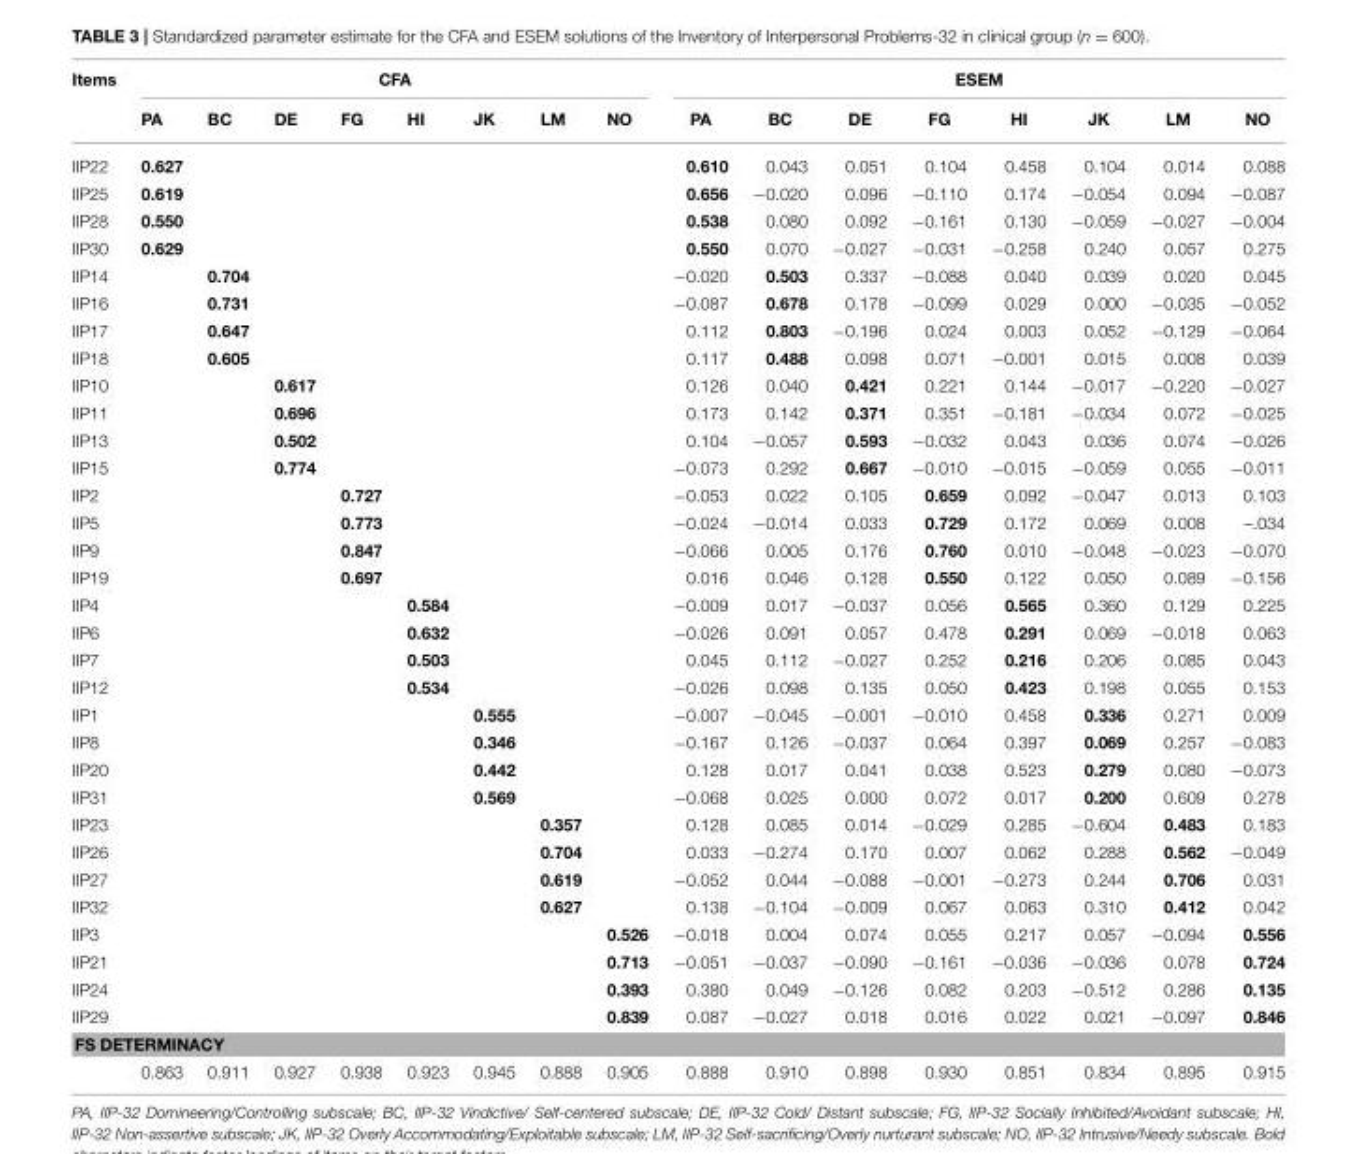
<table><thead><tr><td rowspan="2">Items</td><td colspan="8">CFA</td><td colspan="8">ESEM</td></tr><tr><td>PA</td><td>BC</td><td>DE</td><td>FG</td><td>HI</td><td>JK</td><td>LM</td><td>NO</td><td>PA</td><td>BC</td><td>DE</td><td>FG</td><td>HI</td><td>JK</td><td>LM</td><td>NO</td></tr></thead><tbody><tr><td>IIP22</td><td>0.627</td><td></td><td></td><td></td><td></td><td></td><td></td><td></td><td>0.610</td><td>0.043</td><td>0.051</td><td>0.104</td><td>0.458</td><td>0.104</td><td>0.014</td><td>0.088</td></tr><tr><td>IIP25</td><td>0.619</td><td></td><td></td><td></td><td></td><td></td><td></td><td></td><td>0.656</td><td>−0.020</td><td>0.096</td><td>−0.110</td><td>0.174</td><td>−0.054</td><td>0.094</td><td>−0.087</td></tr><tr><td>IIP28</td><td>0.550</td><td></td><td></td><td></td><td></td><td></td><td></td><td></td><td>0.538</td><td>0.080</td><td>0.092</td><td>−0.161</td><td>0.130</td><td>−0.059</td><td>−0.027</td><td>−0.004</td></tr><tr><td>IIP30</td><td>0.629</td><td></td><td></td><td></td><td></td><td></td><td></td><td></td><td>0.550</td><td>0.070</td><td>−0.027</td><td>−0.031</td><td>−0.258</td><td>0.240</td><td>0.057</td><td>0.275</td></tr><tr><td>IIP14</td><td></td><td>0.704</td><td></td><td></td><td></td><td></td><td></td><td></td><td>−0.020</td><td>0.503</td><td>0.337</td><td>−0.088</td><td>0.040</td><td>0.039</td><td>0.020</td><td>0.045</td></tr><tr><td>IIP16</td><td></td><td>0.731</td><td></td><td></td><td></td><td></td><td></td><td></td><td>−0.087</td><td>0.678</td><td>0.178</td><td>−0.099</td><td>0.029</td><td>0.000</td><td>−0.035</td><td>−0.052</td></tr><tr><td>IIP17</td><td></td><td>0.647</td><td></td><td></td><td></td><td></td><td></td><td></td><td>0.112</td><td>0.803</td><td>−0.196</td><td>0.024</td><td>0.003</td><td>0.052</td><td>−0.129</td><td>−0.064</td></tr><tr><td>IIP18</td><td></td><td>0.605</td><td></td><td></td><td></td><td></td><td></td><td></td><td>0.117</td><td>0.488</td><td>0.098</td><td>0.071</td><td>−0.001</td><td>0.015</td><td>0.008</td><td>0.039</td></tr><tr><td>IIP10</td><td></td><td></td><td>0.617</td><td></td><td></td><td></td><td></td><td></td><td>0.126</td><td>0.040</td><td>0.421</td><td>0.221</td><td>0.144</td><td>−0.017</td><td>−0.220</td><td>−0.027</td></tr><tr><td>IIP11</td><td></td><td></td><td>0.696</td><td></td><td></td><td></td><td></td><td></td><td>0.173</td><td>0.142</td><td>0.371</td><td>0.351</td><td>−0.181</td><td>−0.034</td><td>0.072</td><td>−0.025</td></tr><tr><td>IIP13</td><td></td><td></td><td>0.502</td><td></td><td></td><td></td><td></td><td></td><td>0.104</td><td>−0.057</td><td>0.593</td><td>−0.032</td><td>0.043</td><td>0.036</td><td>0.074</td><td>−0.026</td></tr><tr><td>IIP15</td><td></td><td></td><td>0.774</td><td></td><td></td><td></td><td></td><td></td><td>−0.073</td><td>0.292</td><td>0.667</td><td>−0.010</td><td>−0.015</td><td>−0.059</td><td>0.055</td><td>−0.011</td></tr><tr><td>IIP2</td><td></td><td></td><td></td><td>0.727</td><td></td><td></td><td></td><td></td><td>−0.053</td><td>0.022</td><td>0.105</td><td>0.659</td><td>0.092</td><td>−0.047</td><td>0.013</td><td>0.103</td></tr><tr><td>IIP5</td><td></td><td></td><td></td><td>0.773</td><td></td><td></td><td></td><td></td><td>−0.024</td><td>−0.014</td><td>0.033</td><td>0.729</td><td>0.172</td><td>0.069</td><td>0.008</td><td>–.034</td></tr><tr><td>IIP9</td><td></td><td></td><td></td><td>0.847</td><td></td><td></td><td></td><td></td><td>−0.066</td><td>0.005</td><td>0.176</td><td>0.760</td><td>0.010</td><td>−0.048</td><td>−0.023</td><td>−0.070</td></tr><tr><td>IIP19</td><td></td><td></td><td></td><td>0.697</td><td></td><td></td><td></td><td></td><td>0.016</td><td>0.046</td><td>0.128</td><td>0.550</td><td>0.122</td><td>0.050</td><td>0.089</td><td>−0.156</td></tr><tr><td>IIP4</td><td></td><td></td><td></td><td></td><td>0.584</td><td></td><td></td><td></td><td>−0.009</td><td>0.017</td><td>−0.037</td><td>0.056</td><td>0.565</td><td>0.360</td><td>0.129</td><td>0.225</td></tr><tr><td>IIP6</td><td></td><td></td><td></td><td></td><td>0.632</td><td></td><td></td><td></td><td>−0.026</td><td>0.091</td><td>0.057</td><td>0.478</td><td>0.291</td><td>0.069</td><td>−0.018</td><td>0.063</td></tr><tr><td>IIP7</td><td></td><td></td><td></td><td></td><td>0.503</td><td></td><td></td><td></td><td>0.045</td><td>0.112</td><td>−0.027</td><td>0.252</td><td>0.216</td><td>0.206</td><td>0.085</td><td>0.043</td></tr><tr><td>IIP12</td><td></td><td></td><td></td><td></td><td>0.534</td><td></td><td></td><td></td><td>−0.026</td><td>0.098</td><td>0.135</td><td>0.050</td><td>0.423</td><td>0.198</td><td>0.055</td><td>0.153</td></tr><tr><td>IIP1</td><td></td><td></td><td></td><td></td><td></td><td>0.555</td><td></td><td></td><td>−0.007</td><td>−0.045</td><td>−0.001</td><td>−0.010</td><td>0.458</td><td>0.336</td><td>0.271</td><td>0.009</td></tr><tr><td>IIP8</td><td></td><td></td><td></td><td></td><td></td><td>0.346</td><td></td><td></td><td>−0.167</td><td>0.126</td><td>−0.037</td><td>0.064</td><td>0.397</td><td>0.069</td><td>0.257</td><td>−0.083</td></tr><tr><td>IIP20</td><td></td><td></td><td></td><td></td><td></td><td>0.442</td><td></td><td></td><td>0.128</td><td>0.017</td><td>0.041</td><td>0.038</td><td>0.523</td><td>0.279</td><td>0.080</td><td>−0.073</td></tr><tr><td>IIP31</td><td></td><td></td><td></td><td></td><td></td><td>0.569</td><td></td><td></td><td>−0.068</td><td>0.025</td><td>0.000</td><td>0.072</td><td>0.017</td><td>0.200</td><td>0.609</td><td>0.278</td></tr><tr><td>IIP23</td><td></td><td></td><td></td><td></td><td></td><td></td><td>0.357</td><td></td><td>0.128</td><td>0.085</td><td>0.014</td><td>−0.029</td><td>0.285</td><td>−0.604</td><td>0.483</td><td>0.183</td></tr><tr><td>IIP26</td><td></td><td></td><td></td><td></td><td></td><td></td><td>0.704</td><td></td><td>0.033</td><td>−0.274</td><td>0.170</td><td>0.007</td><td>0.062</td><td>0.288</td><td>0.562</td><td>−0.049</td></tr><tr><td>IIP27</td><td></td><td></td><td></td><td></td><td></td><td></td><td>0.619</td><td></td><td>−0.052</td><td>0.044</td><td>−0.088</td><td>−0.001</td><td>−0.273</td><td>0.244</td><td>0.706</td><td>0.031</td></tr><tr><td>IIP32</td><td></td><td></td><td></td><td></td><td></td><td></td><td>0.627</td><td></td><td>0.138</td><td>−0.104</td><td>−0.009</td><td>0.067</td><td>0.063</td><td>0.310</td><td>0.412</td><td>0.042</td></tr><tr><td>IIP3</td><td></td><td></td><td></td><td></td><td></td><td></td><td></td><td>0.526</td><td>−0.018</td><td>0.004</td><td>0.074</td><td>0.055</td><td>0.217</td><td>0.057</td><td>−0.094</td><td>0.556</td></tr><tr><td>IIP21</td><td></td><td></td><td></td><td></td><td></td><td></td><td></td><td>0.713</td><td>−0.051</td><td>−0.037</td><td>−0.090</td><td>−0.161</td><td>−0.036</td><td>−0.036</td><td>0.078</td><td>0.724</td></tr><tr><td>IIP24</td><td></td><td></td><td></td><td></td><td></td><td></td><td></td><td>0.393</td><td>0.380</td><td>0.049</td><td>−0.126</td><td>0.082</td><td>0.203</td><td>−0.512</td><td>0.286</td><td>0.135</td></tr><tr><td>IIP29</td><td></td><td></td><td></td><td></td><td></td><td></td><td></td><td>0.839</td><td>0.087</td><td>−0.027</td><td>0.018</td><td>0.016</td><td>0.022</td><td>0.021</td><td>−0.097</td><td>0.846</td></tr><tr><td colspan="17">FS DETERMINACY</td></tr><tr><td></td><td>0.863</td><td>0.911</td><td>0.927</td><td>0.938</td><td>0.923</td><td>0.945</td><td>0.888</td><td>0.905</td><td>0.888</td><td>0.910</td><td>0.898</td><td>0.930</td><td>0.851</td><td>0.834</td><td>0.895</td><td>0.915</td></tr></tbody></table>